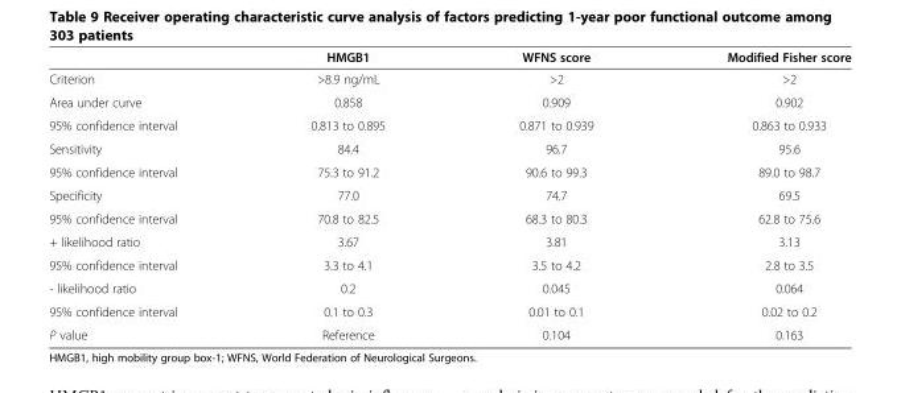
<table><thead><tr><td></td><td>HMGB1</td><td>WFNS score</td><td>Modified Fisher score</td></tr></thead><tbody><tr><td>Criterion</td><td>&gt;8.9 ng/mL</td><td>&gt;2</td><td>&gt;2</td></tr><tr><td>Area under curve</td><td>0.858</td><td>0.909</td><td>0.902</td></tr><tr><td>95% confidence interval</td><td>0.813 to 0.895</td><td>0.871 to 0.939</td><td>0.863 to 0.933</td></tr><tr><td>Sensitivity</td><td>84.4</td><td>96.7</td><td>95.6</td></tr><tr><td>95% confidence interval</td><td>75.3 to 91.2</td><td>90.6 to 99.3</td><td>89.0 to 98.7</td></tr><tr><td>Specificity</td><td>77.0</td><td>74.7</td><td>69.5</td></tr><tr><td>95% confidence interval</td><td>70.8 to 82.5</td><td>68.3 to 80.3</td><td>62.8 to 75.6</td></tr><tr><td>+ likelihood ratio</td><td>3.67</td><td>3.81</td><td>3.13</td></tr><tr><td>95% confidence interval</td><td>3.3 to 4.1</td><td>3.5 to 4.2</td><td>2.8 to 3.5</td></tr><tr><td>- likelihood ratio</td><td>0.2</td><td>0.045</td><td>0.064</td></tr><tr><td>95% confidence interval</td><td>0.1 to 0.3</td><td>0.01 to 0.1</td><td>0.02 to 0.2</td></tr><tr><td>P value</td><td>Reference</td><td>0.104</td><td>0.163</td></tr></tbody></table>